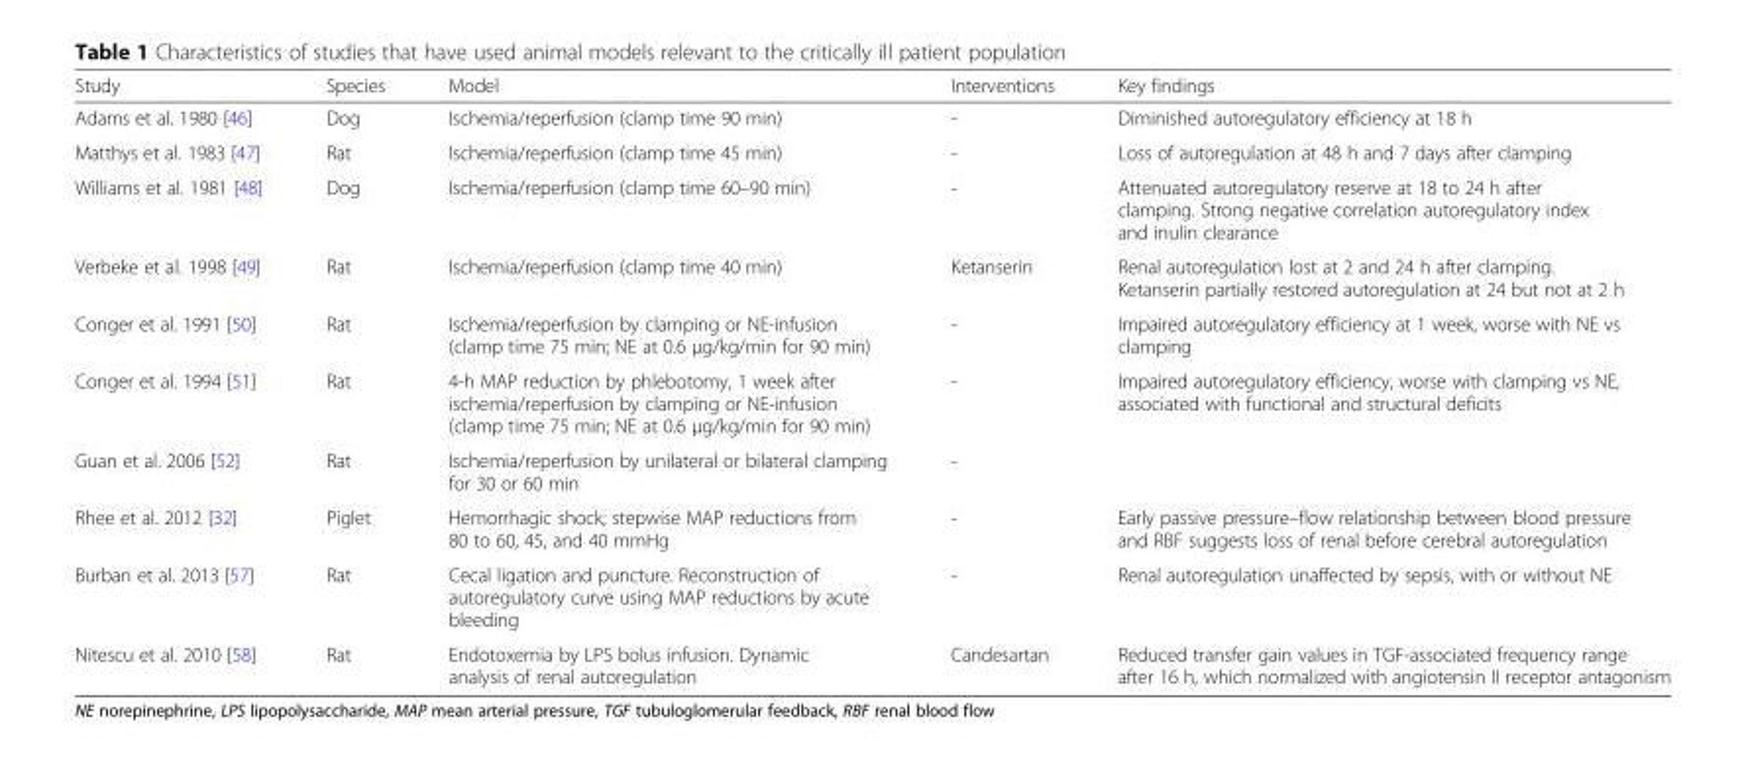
<table><thead><tr><td>Study</td><td>Species</td><td>Model</td><td>Interventions</td><td>Key findings</td></tr></thead><tbody><tr><td>Adams et al. 1980 [46]</td><td>Dog</td><td>Ischemia/reperfusion (clamp time 90 min)</td><td>-</td><td>Diminished autoregulatory efficiency at 18 h</td></tr><tr><td>Matthys et al. 1983 [47]</td><td>Rat</td><td>Ischemia/reperfusion (clamp time 45 min)</td><td>-</td><td>Loss of autoregulation at 48 h and 7 days after clamping</td></tr><tr><td>Williams et al. 1981 [48]</td><td>Dog</td><td>Ischemia/reperfusion (clamp time 60–90 min)</td><td>-</td><td>Attenuated autoregulatory reserve at 18 to 24 h after clamping. Strong negative correlation autoregulatory index and inulin clearance</td></tr><tr><td>Verbeke et al. 1998 [49]</td><td>Rat</td><td>Ischemia/reperfusion (clamp time 40 min)</td><td>Ketanserin</td><td>Renal autoregulation lost at 2 and 24 h after clamping. Ketanserin partially restored autoregulation at 24 but not at 2 h</td></tr><tr><td>Conger et al. 1991 [50]</td><td>Rat</td><td>Ischemia/reperfusion by clamping or NE-infusion (clamp time 75 min; NE at 0.6 μg/kg/min for 90 min)</td><td>-</td><td>Impaired autoregulatory efficiency at 1 week, worse with NE vs clamping</td></tr><tr><td>Conger et al. 1994 [51]</td><td>Rat</td><td>4-h MAP reduction by phlebotomy, 1 week after ischemia/reperfusion by clamping or NE-infusion (clamp time 75 min; NE at 0.6 μg/kg/min for 90 min)</td><td>-</td><td>Impaired autoregulatory efficiency, worse with clamping vs NE, associated with functional and structural deficits</td></tr><tr><td>Guan et al. 2006 [52]</td><td>Rat</td><td>Ischemia/reperfusion by unilateral or bilateral clamping for 30 or 60 min</td><td>-</td><td></td></tr><tr><td>Rhee et al. 2012 [32]</td><td>Piglet</td><td>Hemorrhagic shock; stepwise MAP reductions from 80 to 60, 45, and 40 mmHg</td><td>-</td><td>Early passive pressure–flow relationship between blood pressure and RBF suggests loss of renal before cerebral autoregulation</td></tr><tr><td>Burban et al. 2013 [57]</td><td>Rat</td><td>Cecal ligation and puncture. Reconstruction of autoregulatory curve using MAP reductions by acute bleeding</td><td>-</td><td>Renal autoregulation unaffected by sepsis, with or without NE</td></tr><tr><td>Nitescu et al. 2010 [58]</td><td>Rat</td><td>Endotoxemia by LPS bolus infusion. Dynamic analysis of renal autoregulation</td><td>Candesartan</td><td>Reduced transfer gain values in TGF-associated frequency range after 16 h, which normalized with angiotensin II receptor antagonism</td></tr></tbody></table>